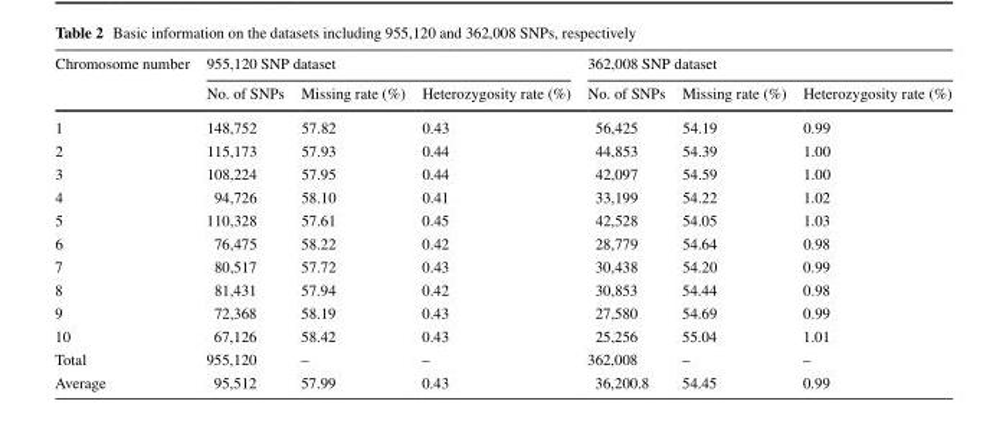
<table><thead><tr><td rowspan="2">Chromosome number</td><td colspan="3">955,120 SNP dataset</td><td colspan="3">362,008 SNP dataset</td></tr><tr><td>No. of SNPs</td><td>Missing rate (%)</td><td>Heterozygosity rate (%)</td><td>No. of SNPs</td><td>Missing rate (%)</td><td>Heterozygosity rate (%)</td></tr></thead><tbody><tr><td>1</td><td>148,752</td><td>57.82</td><td>0.43</td><td>56,425</td><td>54.19</td><td>0.99</td></tr><tr><td>2</td><td>115,173</td><td>57.93</td><td>0.44</td><td>44,853</td><td>54.39</td><td>1.00</td></tr><tr><td>3</td><td>108,224</td><td>57.95</td><td>0.44</td><td>42,097</td><td>54.59</td><td>1.00</td></tr><tr><td>4</td><td>94,726</td><td>58.10</td><td>0.41</td><td>33,199</td><td>54.22</td><td>1.02</td></tr><tr><td>5</td><td>110,328</td><td>57.61</td><td>0.45</td><td>42,528</td><td>54.05</td><td>1.03</td></tr><tr><td>6</td><td>76,475</td><td>58.22</td><td>0.42</td><td>28,779</td><td>54.64</td><td>0.98</td></tr><tr><td>7</td><td>80,517</td><td>57.72</td><td>0.43</td><td>30,438</td><td>54.20</td><td>0.99</td></tr><tr><td>8</td><td>81,431</td><td>57.94</td><td>0.42</td><td>30,853</td><td>54.44</td><td>0.98</td></tr><tr><td>9</td><td>72,368</td><td>58.19</td><td>0.43</td><td>27,580</td><td>54.69</td><td>0.99</td></tr><tr><td>10</td><td>67,126</td><td>58.42</td><td>0.43</td><td>25,256</td><td>55.04</td><td>1.01</td></tr><tr><td>Total</td><td>955,120</td><td>–</td><td>–</td><td>362,008</td><td>–</td><td>–</td></tr><tr><td>Average</td><td>95,512</td><td>57.99</td><td>0.43</td><td>36,200.8</td><td>54.45</td><td>0.99</td></tr></tbody></table>